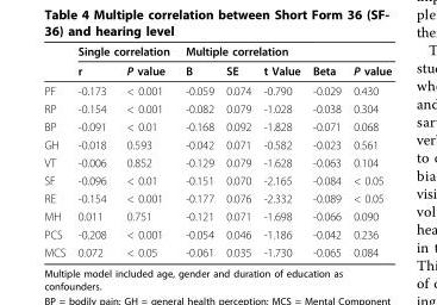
<table><thead><tr><td rowspan="2"></td><td colspan="2">Single correlation</td><td colspan="3">Multiple correlation</td><td rowspan="2">Beta</td><td rowspan="2">P value</td></tr><tr><td>r</td><td>P value</td><td>B</td><td>SE</td><td>t Value</td></tr></thead><tbody><tr><td>PF</td><td>-0.173</td><td>&lt; 0.001</td><td>-0.059</td><td>0.074</td><td>-0.790</td><td>-0.029</td><td>0.430</td></tr><tr><td>RP</td><td>-0.154</td><td>&lt; 0.001</td><td>-0.082</td><td>0.079</td><td>-1.028</td><td>-0.038</td><td>0.304</td></tr><tr><td>BP</td><td>-0.091</td><td>&lt; 0.01</td><td>-0.168</td><td>0.092</td><td>-1.828</td><td>-0.071</td><td>0.068</td></tr><tr><td>GH</td><td>-0.018</td><td>0.593</td><td>-0.042</td><td>0.071</td><td>-0.582</td><td>-0.023</td><td>0.561</td></tr><tr><td>VT</td><td>-0.006</td><td>0.852</td><td>-0.129</td><td>0.079</td><td>-1.628</td><td>-0.063</td><td>0.104</td></tr><tr><td>SF</td><td>-0.096</td><td>&lt; 0.01</td><td>-0.151</td><td>0.070</td><td>-2.165</td><td>-0.084</td><td>&lt; 0.05</td></tr><tr><td>RE</td><td>-0.154</td><td>&lt; 0.001</td><td>-0.177</td><td>0.076</td><td>-2.332</td><td>-0.089</td><td>&lt; 0.05</td></tr><tr><td>MH</td><td>0.011</td><td>0.751</td><td>-0.121</td><td>0.071</td><td>-1.698</td><td>-0.066</td><td>0.090</td></tr><tr><td>PCS</td><td>-0.208</td><td>&lt; 0.001</td><td>-0.054</td><td>0.046</td><td>-1.186</td><td>-0.042</td><td>0.236</td></tr><tr><td>MCS</td><td>0.072</td><td>&lt; 0.05</td><td>-0.061</td><td>0.035</td><td>-1.730</td><td>-0.065</td><td>0.084</td></tr></tbody></table>